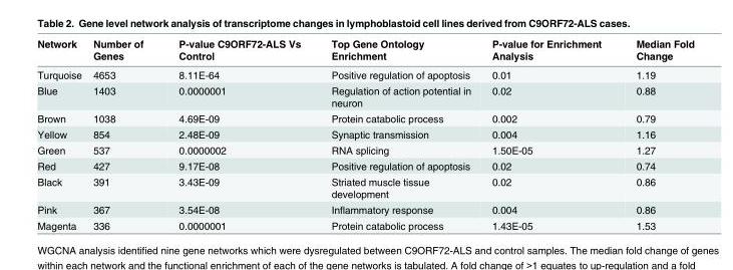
<table><thead><tr><td>Network</td><td>Number of Genes</td><td>P-value C9ORF72-ALS Vs Control</td><td>Top Gene Ontology Enrichment</td><td>P-value for Enrichment Analysis</td><td>Median Fold Change</td></tr></thead><tbody><tr><td>Turquoise</td><td>4653</td><td>8.11E-64</td><td>Positive regulation of apoptosis</td><td>0.01</td><td>1.19</td></tr><tr><td>Blue</td><td>1403</td><td>0.0000001</td><td>Regulation of action potential in neuron</td><td>0.02</td><td>0.88</td></tr><tr><td>Brown</td><td>1038</td><td>4.69E-09</td><td>Protein catabolic process</td><td>0.002</td><td>0.79</td></tr><tr><td>Yellow</td><td>854</td><td>2.48E-09</td><td>Synaptic transmission</td><td>0.004</td><td>1.16</td></tr><tr><td>Green</td><td>537</td><td>0.0000002</td><td>RNA splicing</td><td>1.50E-05</td><td>1.27</td></tr><tr><td>Red</td><td>427</td><td>9.17E-08</td><td>Positive regulation of apoptosis</td><td>0.02</td><td>0.74</td></tr><tr><td>Black</td><td>391</td><td>3.43E-09</td><td>Striated muscle tissue development</td><td>0.02</td><td>0.86</td></tr><tr><td>Pink</td><td>367</td><td>3.54E-08</td><td>Inflammatory response</td><td>0.004</td><td>0.86</td></tr><tr><td>Magenta</td><td>336</td><td>0.0000001</td><td>Protein catabolic process</td><td>1.43E-05</td><td>1.53</td></tr></tbody></table>